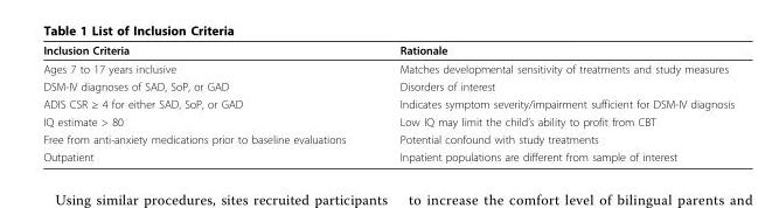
<table><thead><tr><td>Inclusion Criteria</td><td>Rationale</td></tr></thead><tbody><tr><td>Ages 7 to 17 years inclusive</td><td>Matches developmental sensitivity of treatments and study measures</td></tr><tr><td>DSM-IV diagnoses of SAD, SoP, or GAD</td><td>Disorders of interest</td></tr><tr><td>ADIS CSR ≥ 4 for either SAD, SoP, or GAD</td><td>Indicates symptom severity/impairment sufficient for DSM-IV diagnosis</td></tr><tr><td>IQ estimate &gt; 80</td><td>Low IQ may limit the child’s ability to profit from CBT</td></tr><tr><td>Free from anti-anxiety medications prior to baseline evaluations</td><td>Potential confound with study treatments</td></tr><tr><td>Outpatient</td><td>Inpatient populations are different from sample of interest</td></tr></tbody></table>